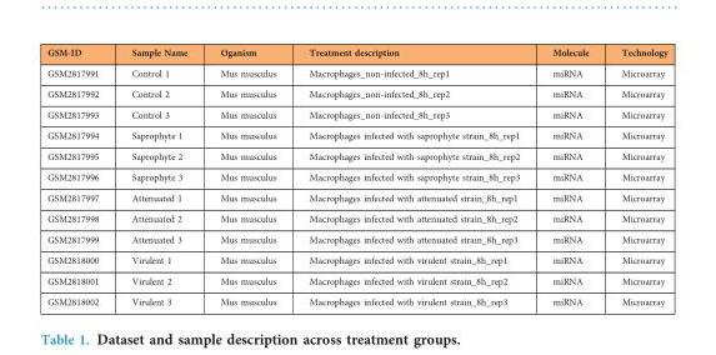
<table><thead><tr><td>GSM-ID</td><td>Sample Name</td><td>Oganism</td><td>Treatment description</td><td>Molecule</td><td>Technology</td></tr></thead><tbody><tr><td>GSM2817991</td><td>Control 1</td><td>Mus musculus</td><td>Macrophages_non-infected_8h_rep1</td><td>miRNA</td><td>Microarray</td></tr><tr><td>GSM2817992</td><td>Control 2</td><td>Mus musculus</td><td>Macrophages_non-infected_8h_rep2</td><td>miRNA</td><td>Microarray</td></tr><tr><td>GSM2817993</td><td>Control 3</td><td>Mus musculus</td><td>Macrophages_non-infected_8h_rep3</td><td>miRNA</td><td>Microarray</td></tr><tr><td>GSM2817994</td><td>Saprophyte 1</td><td>Mus musculus</td><td>Macrophages infected with saprophyte strain_8h_rep1</td><td>miRNA</td><td>Microarray</td></tr><tr><td>GSM2817995</td><td>Saprophyte 2</td><td>Mus musculus</td><td>Macrophages infected with saprophyte strain_8h_rep2</td><td>miRNA</td><td>Microarray</td></tr><tr><td>GSM2817996</td><td>Saprophyte 3</td><td>Mus musculus</td><td>Macrophages infected with saprophyte strain_8h_rep3</td><td>miRNA</td><td>Microarray</td></tr><tr><td>GSM2817997</td><td>Attenuated 1</td><td>Mus musculus</td><td>Macrophages infected with attenuated strain_8h_rep1</td><td>miRNA</td><td>Microarray</td></tr><tr><td>GSM2817998</td><td>Attenuated 2</td><td>Mus musculus</td><td>Macrophages infected with attenuated strain_8h_rep2</td><td>miRNA</td><td>Microarray</td></tr><tr><td>GSM2817999</td><td>Attenuated 3</td><td>Mus musculus</td><td>Macrophages infected with attenuated strain_8h_rep3</td><td>miRNA</td><td>Microarray</td></tr><tr><td>GSM2818000</td><td>Virulent 1</td><td>Mus musculus</td><td>Macrophages infected with virulent strain_8h_rep1</td><td>miRNA</td><td>Microarray</td></tr><tr><td>GSM2818001</td><td>Virulent 2</td><td>Mus musculus</td><td>Macrophages infected with virulent strain_8h_rep2</td><td>miRNA</td><td>Microarray</td></tr><tr><td>GSM2818002</td><td>Virulent 3</td><td>Mus musculus</td><td>Macrophages infected with virulent strain_8h_rep3</td><td>miRNA</td><td>Microarray</td></tr></tbody></table>